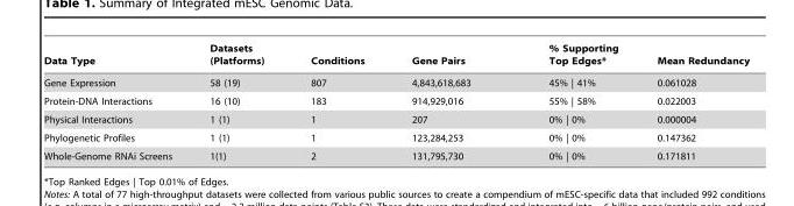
<table><thead><tr><td>Data Type</td><td>Datasets (Platforms)</td><td>Conditions</td><td>Gene Pairs</td><td>% Supporting Top Edges*</td><td>Mean Redundancy</td></tr></thead><tbody><tr><td>Gene Expression</td><td>58 (19)</td><td>807</td><td>4,843,618,683</td><td>45% | 41%</td><td>0.061028</td></tr><tr><td>Protein-DNA Interactions</td><td>16 (10)</td><td>183</td><td>914,929,016</td><td>55% | 58%</td><td>0.022003</td></tr><tr><td>Physical Interactions</td><td>1 (1)</td><td>1</td><td>207</td><td>0% | 0%</td><td>0.000004</td></tr><tr><td>Phylogenetic Profiles</td><td>1 (1)</td><td>1</td><td>123,284,253</td><td>0% | 0%</td><td>0.147362</td></tr><tr><td>Whole-Genome RNAi Screens</td><td>1(1)</td><td>2</td><td>131,795,730</td><td>0% | 0%</td><td>0.171811</td></tr></tbody></table>